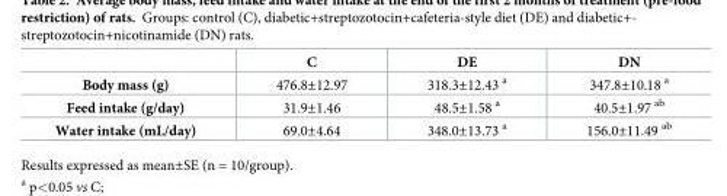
<table><thead><tr><td></td><td>C</td><td>DE</td><td>DN</td></tr></thead><tbody><tr><td>Body mass (g)</td><td>476.8±12.97</td><td>318.3±12.43 <sup>a</sup></td><td>347.8±10.18 <sup>a</sup></td></tr><tr><td>Feed intake (g/day)</td><td>31.9±1.46</td><td>48.5±1.58 <sup>a</sup></td><td>40.5±1.97 <sup>ab</sup></td></tr><tr><td>Water intake (mL/day)</td><td>69.0±4.64</td><td>348.0±13.73 <sup>a</sup></td><td>156.0±11.49 <sup>ab</sup></td></tr></tbody></table>